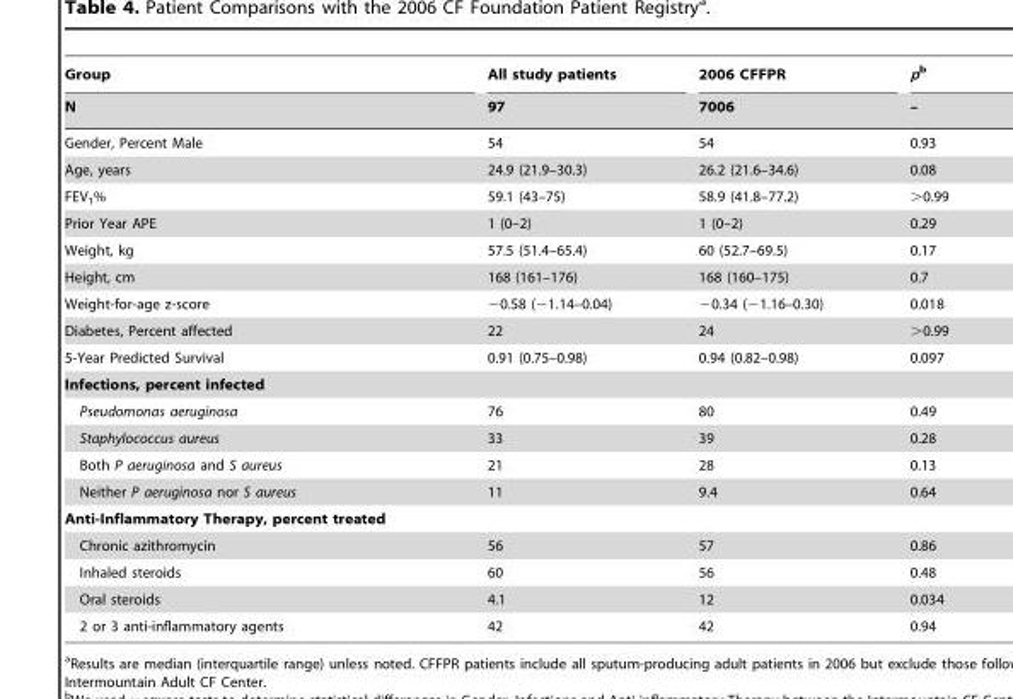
<table><thead><tr><td rowspan="2">Group N</td><td rowspan="2">All study patients 97</td><td rowspan="2">2006 CFFPR 7006</td><td rowspan="2">pb –</td></tr><tr></tr></thead><tbody><tr><td>Gender, Percent Male</td><td>54</td><td>54</td><td>0.93</td></tr><tr><td>Age, years</td><td>24.9 (21.9–30.3)</td><td>26.2 (21.6–34.6)</td><td>0.08</td></tr><tr><td>FEV<sub>1</sub>%</td><td>59.1 (43–75)</td><td>58.9 (41.8–77.2)</td><td>&gt;0.99</td></tr><tr><td>Prior Year APE</td><td>1 (0–2)</td><td>1 (0–2)</td><td>0.29</td></tr><tr><td>Weight, kg</td><td>57.5 (51.4–65.4)</td><td>60 (52.7–69.5)</td><td>0.17</td></tr><tr><td>Height, cm</td><td>168 (161–176)</td><td>168 (160–175)</td><td>0.7</td></tr><tr><td>Weight-for-age z-score</td><td>−0.58 (−1.14–0.04)</td><td>−0.34 (−1.16–0.30)</td><td>0.018</td></tr><tr><td>Diabetes, Percent affected</td><td>22</td><td>24</td><td>&gt;0.99</td></tr><tr><td>5-Year Predicted Survival</td><td>0.91 (0.75–0.98)</td><td>0.94 (0.82–0.98)</td><td>0.097</td></tr><tr><td colspan="4">Infections, percent infected</td></tr><tr><td>Pseudomonas aeruginosa</td><td>76</td><td>80</td><td>0.49</td></tr><tr><td>Staphylococcus aureus</td><td>33</td><td>39</td><td>0.28</td></tr><tr><td>Both P aeruginosa and S aureus</td><td>21</td><td>28</td><td>0.13</td></tr><tr><td>Neither P aeruginosa nor S aureus</td><td>11</td><td>9.4</td><td>0.64</td></tr><tr><td colspan="4">Anti-Inflammatory Therapy, percent treated</td></tr><tr><td>Chronic azithromycin</td><td>56</td><td>57</td><td>0.86</td></tr><tr><td>Inhaled steroids</td><td>60</td><td>56</td><td>0.48</td></tr><tr><td>Oral steroids</td><td>4.1</td><td>12</td><td>0.034</td></tr><tr><td>2 or 3 anti-inflammatory agents</td><td>42</td><td>42</td><td>0.94</td></tr></tbody></table>